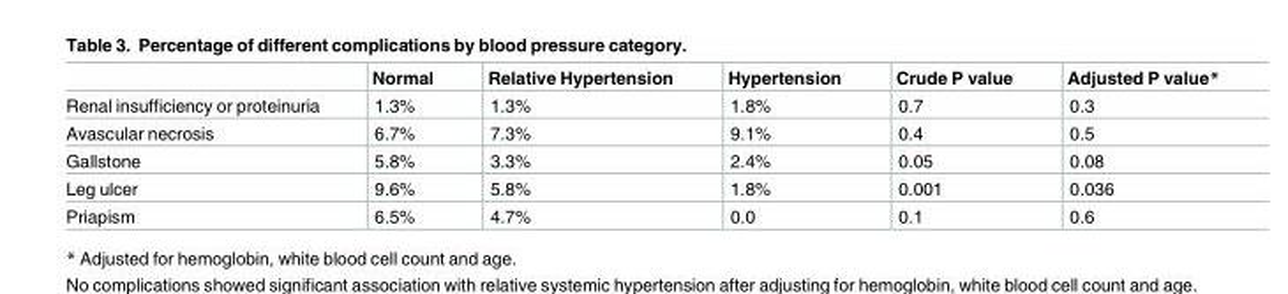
<table><thead><tr><td></td><td>Normal</td><td>Relative Hypertension</td><td>Hypertension</td><td>Crude P value</td><td>Adjusted P value*</td></tr></thead><tbody><tr><td>Renal insufficiency or proteinuria</td><td>1.3%</td><td>1.3%</td><td>1.8%</td><td>0.7</td><td>0.3</td></tr><tr><td>Avascular necrosis</td><td>6.7%</td><td>7.3%</td><td>9.1%</td><td>0.4</td><td>0.5</td></tr><tr><td>Gallstone</td><td>5.8%</td><td>3.3%</td><td>2.4%</td><td>0.05</td><td>0.08</td></tr><tr><td>Leg ulcer</td><td>9.6%</td><td>5.8%</td><td>1.8%</td><td>0.001</td><td>0.036</td></tr><tr><td>Priapism</td><td>6.5%</td><td>4.7%</td><td>0.0</td><td>0.1</td><td>0.6</td></tr></tbody></table>